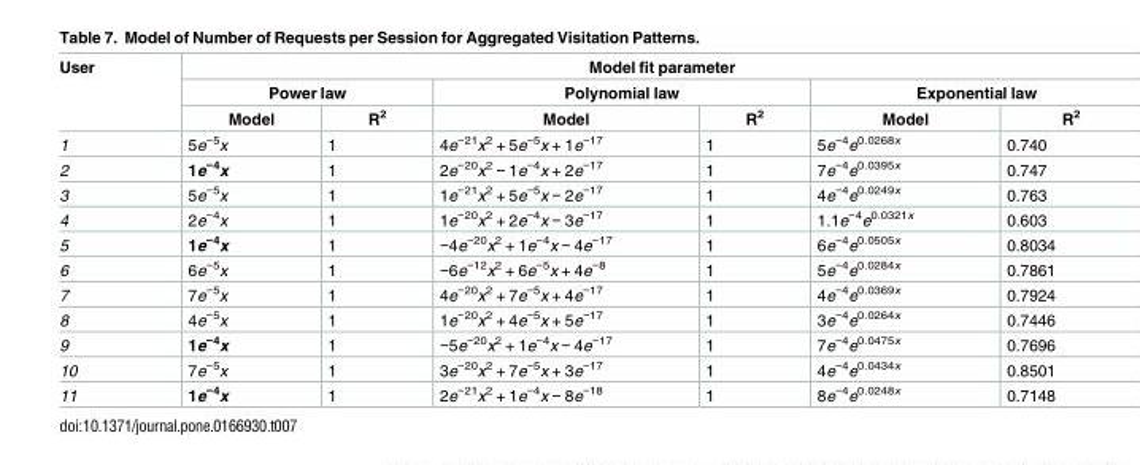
<table><thead><tr><td rowspan="3">User</td><td colspan="6">Model fit parameter</td></tr><tr><td colspan="2">Power law</td><td colspan="2">Polynomial law</td><td colspan="2">Exponential law</td></tr><tr><td>Model</td><td>R<sup>2</sup></td><td>Model</td><td>R<sup>2</sup></td><td>Model</td><td>R<sup>2</sup></td></tr></thead><tbody><tr><td>1</td><td>5e<sup>−5</sup>x</td><td>1</td><td>4e<sup>−21</sup>x<sup>2</sup> + 5e<sup>−5</sup>x + 1e<sup>−17</sup></td><td>1</td><td>5e<sup>−4</sup>e<sup>0.0268x</sup></td><td>0.740</td></tr><tr><td>2</td><td>1e<sup>−4</sup>x</td><td>1</td><td>2e<sup>−20</sup>x<sup>2</sup> − 1e<sup>−4</sup>x + 2e<sup>−17</sup></td><td>1</td><td>7e<sup>−4</sup>e<sup>0.0395x</sup></td><td>0.747</td></tr><tr><td>3</td><td>5e<sup>−5</sup>x</td><td>1</td><td>1e<sup>−21</sup>x<sup>2</sup> + 5e<sup>−5</sup>x − 2e<sup>−17</sup></td><td>1</td><td>4e<sup>−4</sup>e<sup>0.0249x</sup></td><td>0.763</td></tr><tr><td>4</td><td>2e<sup>−4</sup>x</td><td>1</td><td>1e<sup>−20</sup>x<sup>2</sup> + 2e<sup>−4</sup>x − 3e<sup>−17</sup></td><td>1</td><td>1.1e<sup>−4</sup>e<sup>0.0321x</sup></td><td>0.603</td></tr><tr><td>5</td><td>1e<sup>−4</sup>x</td><td>1</td><td>−4e<sup>−20</sup>x<sup>2</sup> + 1e<sup>−4</sup>x − 4e<sup>−17</sup></td><td>1</td><td>6e<sup>−4</sup>e<sup>0.0505x</sup></td><td>0.8034</td></tr><tr><td>6</td><td>6e<sup>−5</sup>x</td><td>1</td><td>−6e<sup>−12</sup>x<sup>2</sup> + 6e<sup>−5</sup>x + 4e<sup>−8</sup></td><td>1</td><td>5e<sup>−4</sup>e<sup>0.0284x</sup></td><td>0.7861</td></tr><tr><td>7</td><td>7e<sup>−5</sup>x</td><td>1</td><td>4e<sup>−20</sup>x<sup>2</sup> + 7e<sup>−5</sup>x + 4e<sup>−17</sup></td><td>1</td><td>4e<sup>−4</sup>e<sup>0.0369x</sup></td><td>0.7924</td></tr><tr><td>8</td><td>4e<sup>−5</sup>x</td><td>1</td><td>1e<sup>−20</sup>x<sup>2</sup> + 4e<sup>−5</sup>x + 5e<sup>−17</sup></td><td>1</td><td>3e<sup>−4</sup>e<sup>0.0264x</sup></td><td>0.7446</td></tr><tr><td>9</td><td>1e<sup>−4</sup>x</td><td>1</td><td>−5e<sup>−20</sup>x<sup>2</sup> + 1e<sup>−4</sup>x − 4e<sup>−17</sup></td><td>1</td><td>7e<sup>−4</sup>e<sup>0.0475x</sup></td><td>0.7696</td></tr><tr><td>10</td><td>7e<sup>−5</sup>x</td><td>1</td><td>3e<sup>−20</sup>x<sup>2</sup> + 7e<sup>−5</sup>x + 3e<sup>−17</sup></td><td>1</td><td>4e<sup>−4</sup>e<sup>0.0434x</sup></td><td>0.8501</td></tr><tr><td>11</td><td>1e<sup>−4</sup>x</td><td>1</td><td>2e<sup>−21</sup>x<sup>2</sup> + 1e<sup>−4</sup>x − 8e<sup>−18</sup></td><td>1</td><td>8e<sup>−4</sup>e<sup>0.0248x</sup></td><td>0.7148</td></tr></tbody></table>